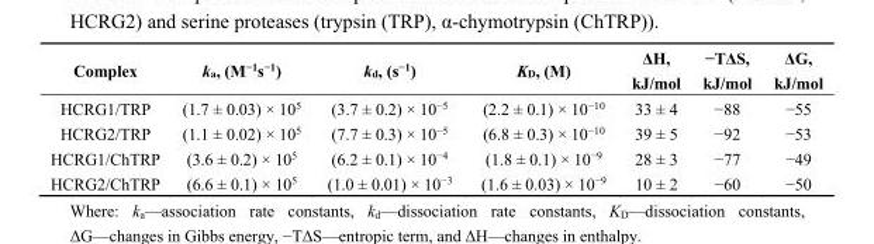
<table><thead><tr><td>Complex</td><td>k<sub>a</sub>, (M<sup>−1</sup>s<sup>−1</sup>)</td><td>k<sub>d</sub>, (s<sup>−1</sup>)</td><td>K<sub>D</sub>, (M)</td><td>ΔH, kJ/mol</td><td>−TΔS, kJ/mol</td><td>ΔG, kJ/mol</td></tr></thead><tbody><tr><td>HCRG1/TRP</td><td>(1.7 ± 0.03) × 10<sup>5</sup></td><td>(3.7 ± 0.2) × 10<sup>−5</sup></td><td>(2.2 ± 0.1) × 10<sup>−10</sup></td><td>33 ± 4</td><td>−88</td><td>−55</td></tr><tr><td>HCRG2/TRP</td><td>(1.1 ± 0.02) × 10<sup>5</sup></td><td>(7.7 ± 0.3) × 10<sup>−5</sup></td><td>(6.8 ± 0.3) × 10<sup>−10</sup></td><td>39 ± 5</td><td>−92</td><td>−53</td></tr><tr><td>HCRG1/ChTRP</td><td>(3.6 ± 0.2) × 10<sup>5</sup></td><td>(6.2 ± 0.1) × 10<sup>−4</sup></td><td>(1.8 ± 0.1) × 10<sup>−9</sup></td><td>28 ± 3</td><td>−77</td><td>−49</td></tr><tr><td>HCRG2/ChTRP</td><td>(6.6 ± 0.1) × 10<sup>5</sup></td><td>(1.0 ± 0.01) × 10<sup>−3</sup></td><td>(1.6 ± 0.03) × 10<sup>−9</sup></td><td>10 ± 2</td><td>−60</td><td>−50</td></tr></tbody></table>